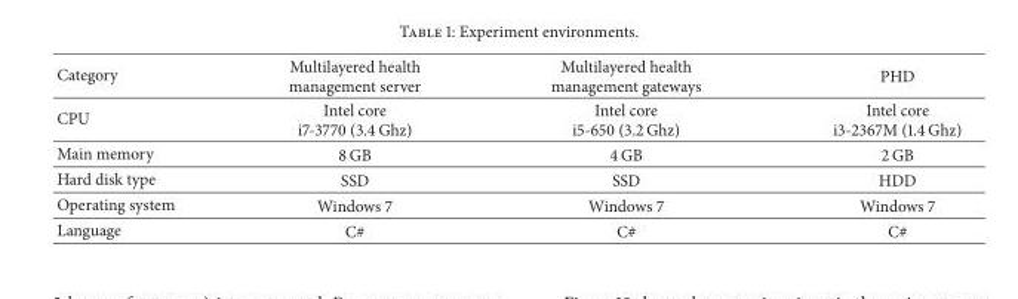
<table><thead><tr><td>Category</td><td>Multilayered health management server</td><td>Multilayered health management gateways</td><td>PHD</td></tr></thead><tbody><tr><td>CPU</td><td>Intel core i7-3770 (3.4 Ghz)</td><td>Intel core i5-650 (3.2 Ghz)</td><td>Intel core i3-2367M (1.4 Ghz)</td></tr><tr><td>Main memory</td><td>8 GB</td><td>4 GB</td><td>2 GB</td></tr><tr><td>Hard disk type</td><td>SSD</td><td>SSD</td><td>HDD</td></tr><tr><td>Operating system</td><td>Windows 7</td><td>Windows 7</td><td>Windows 7</td></tr><tr><td>Language</td><td>C#</td><td>C#</td><td>C#</td></tr></tbody></table>